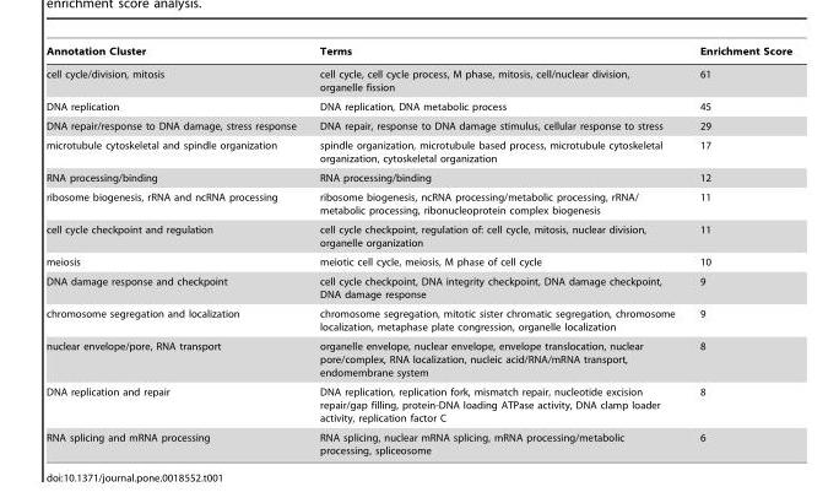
<table><thead><tr><td>Annotation Cluster</td><td>Terms</td><td>Enrichment Score</td></tr></thead><tbody><tr><td>cell cycle/division, mitosis</td><td>cell cycle, cell cycle process, M phase, mitosis, cell/nuclear division, organelle fission</td><td>61</td></tr><tr><td>DNA replication</td><td>DNA replication, DNA metabolic process</td><td>45</td></tr><tr><td>DNA repair/response to DNA damage, stress response</td><td>DNA repair, response to DNA damage stimulus, cellular response to stress</td><td>29</td></tr><tr><td>microtubule cytoskeletal and spindle organization</td><td>spindle organization, microtubule based process, microtubule cytoskeletal organization, cytoskeletal organization</td><td>17</td></tr><tr><td>RNA processing/binding</td><td>RNA processing/binding</td><td>12</td></tr><tr><td>ribosome biogenesis, rRNA and ncRNA processing</td><td>ribosome biogenesis, ncRNA processing/metabolic processing, rRNA/ metabolic processing, ribonucleoprotein complex biogenesis</td><td>11</td></tr><tr><td>cell cycle checkpoint and regulation</td><td>cell cycle checkpoint, regulation of: cell cycle, mitosis, nuclear division, organelle organization</td><td>11</td></tr><tr><td>meiosis</td><td>meiotic cell cycle, meiosis, M phase of cell cycle</td><td>10</td></tr><tr><td>DNA damage response and checkpoint</td><td>cell cycle checkpoint, DNA integrity checkpoint, DNA damage checkpoint, DNA damage response</td><td>9</td></tr><tr><td>chromosome segregation and localization</td><td>chromosome segregation, mitotic sister chromatic segregation, chromosome localization, metaphase plate congression, organelle localization</td><td>9</td></tr><tr><td>nuclear envelope/pore, RNA transport</td><td>organelle envelope, nuclear envelope, envelope translocation, nuclear pore/complex, RNA localization, nucleic acid/RNA/mRNA transport, endomembrane system</td><td>8</td></tr><tr><td>DNA replication and repair</td><td>DNA replication, replication fork, mismatch repair, nucleotide excision repair/gap filling, protein-DNA loading ATPase activity, DNA clamp loader activity, replication factor C</td><td>8</td></tr><tr><td>RNA splicing and mRNA processing</td><td>RNA splicing, nuclear mRNA splicing, mRNA processing/metabolic processing, spliceosome</td><td>6</td></tr></tbody></table>